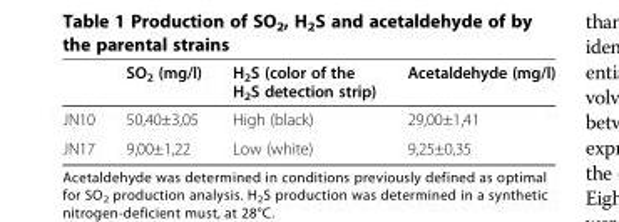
<table><thead><tr><td></td><td>SO<sub>2</sub> (mg/l)</td><td>H<sub>2</sub>S (color of the H<sub>2</sub>S detection strip)</td><td>Acetaldehyde (mg/l)</td></tr></thead><tbody><tr><td>JN10</td><td>50,40±3,05</td><td>High (black)</td><td>29,00±1,41</td></tr><tr><td>JN17</td><td>9,00±1,22</td><td>Low (white)</td><td>9,25±0,35</td></tr></tbody></table>